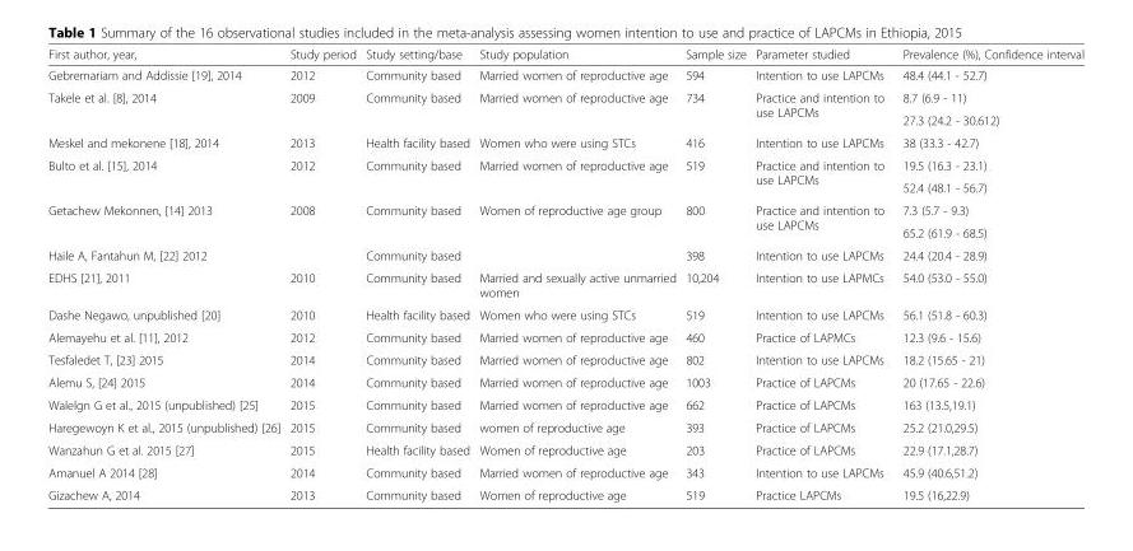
<table><thead><tr><td>First author, year,</td><td>Study period</td><td>Study setting/base</td><td>Study population</td><td>Sample size</td><td>Parameter studied</td><td>Prevalence (%), Confidence interval</td></tr></thead><tbody><tr><td>Gebremariam and Addissie [19], 2014</td><td>2012</td><td>Community based</td><td>Married women of reproductive age</td><td>594</td><td>Intention to use LAPCMs</td><td>48.4 (44.1 - 52.7)</td></tr><tr><td rowspan="2">Takele et al. [8], 2014</td><td rowspan="2">2009</td><td rowspan="2">Community based</td><td rowspan="2">Married women of reproductive age</td><td rowspan="2">734</td><td rowspan="2">Practice and intention to use LAPCMs</td><td>8.7 (6.9 - 11)</td></tr><tr><td>27.3 (24.2 - 30.612)</td></tr><tr><td>Meskel and mekonene [18], 2014</td><td>2013</td><td>Health facility based</td><td>Women who were using STCs</td><td>416</td><td>Intention to use LAPCMs</td><td>38 (33.3 - 42.7)</td></tr><tr><td rowspan="2">Bulto et al. [15], 2014</td><td rowspan="2">2012</td><td rowspan="2">Community based</td><td rowspan="2">Married women of reproductive age</td><td rowspan="2">519</td><td rowspan="2">Practice and intention to use LAPCMs</td><td>19.5 (16.3 - 23.1)</td></tr><tr><td>52.4 (48.1 - 56.7)</td></tr><tr><td rowspan="2">Getachew Mekonnen, [14] 2013</td><td rowspan="2">2008</td><td rowspan="2">Community based</td><td rowspan="2">Women of reproductive age group</td><td rowspan="2">800</td><td rowspan="2">Practice and intention to use LAPCMs</td><td>7.3 (5.7 - 9.3)</td></tr><tr><td>65.2 (61.9 - 68.5)</td></tr><tr><td>Haile A, Fantahun M, [22] 2012</td><td></td><td>Community based</td><td></td><td>398</td><td>Intention to use LAPCMs</td><td>24.4 (20.4 - 28.9)</td></tr><tr><td>EDHS [21], 2011</td><td>2010</td><td>Community based</td><td>Married and sexually active unmarried women</td><td>10,204</td><td>Intention to use LAPMCs</td><td>54.0 (53.0 - 55.0)</td></tr><tr><td>Dashe Negawo, unpublished [20]</td><td>2010</td><td>Health facility based</td><td>Women who were using STCs</td><td>519</td><td>Intention to use LAPCMs</td><td>56.1 (51.8 - 60.3)</td></tr><tr><td>Alemayehu et al. [11], 2012</td><td>2012</td><td>Community based</td><td>Married women of reproductive age</td><td>460</td><td>Practice of LAPMCs</td><td>12.3 (9.6 - 15.6)</td></tr><tr><td>Tesfaledet T, [23] 2015</td><td>2014</td><td>Community based</td><td>Married women of reproductive age</td><td>802</td><td>Intention to use LAPCMs</td><td>18.2 (15.65 - 21)</td></tr><tr><td>Alemu S, [24] 2015</td><td>2014</td><td>Community based</td><td>Married women of reproductive age</td><td>1003</td><td>Practice of LAPCMs</td><td>20 (17.65 - 22.6)</td></tr><tr><td>Walelgn G et al., 2015 (unpublished) [25]</td><td>2015</td><td>Community based</td><td>Married women of reproductive age</td><td>662</td><td>Practice of LAPCMs</td><td>163 (13.5,19.1)</td></tr><tr><td>Haregewoyn K et al., 2015 (unpublished) [26]</td><td>2015</td><td>Community based</td><td>women of reproductive age</td><td>393</td><td>Practice of LAPCMs</td><td>25.2 (21.0,29.5)</td></tr><tr><td>Wanzahun G et al. 2015 [27]</td><td>2015</td><td>Health facility based</td><td>Women of reproductive age</td><td>203</td><td>Practice of LAPCMs</td><td>22.9 (17.1,28.7)</td></tr><tr><td>Amanuel A 2014 [28]</td><td>2014</td><td>Community based</td><td>Married women of reproductive age</td><td>343</td><td>Intention to use LAPCMs</td><td>45.9 (40.6,51.2)</td></tr><tr><td>Gizachew A, 2014</td><td>2013</td><td>Community based</td><td>Women of reproductive age</td><td>519</td><td>Practice LAPCMs</td><td>19.5 (16,22.9)</td></tr></tbody></table>